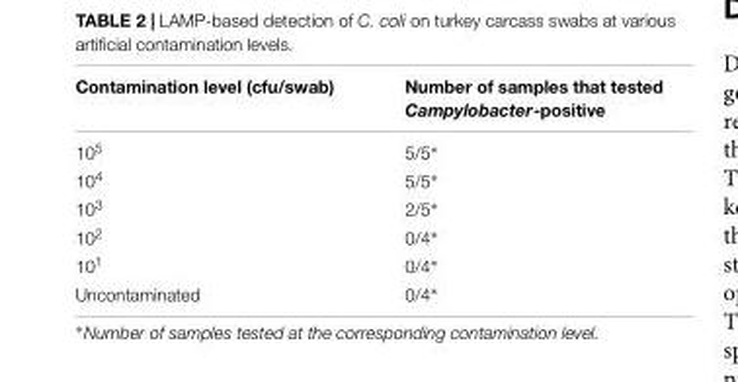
<table><thead><tr><td>Contamination level (cfu/swab)</td><td>Number of samples that tested Campylobacter-positive</td></tr></thead><tbody><tr><td>10<sup>5</sup></td><td>5/5∗</td></tr><tr><td>10<sup>4</sup></td><td>5/5∗</td></tr><tr><td>10<sup>3</sup></td><td>2/5∗</td></tr><tr><td>10<sup>2</sup></td><td>0/4∗</td></tr><tr><td>10<sup>1</sup></td><td>0/4∗</td></tr><tr><td>Uncontaminated</td><td>0/4∗</td></tr></tbody></table>